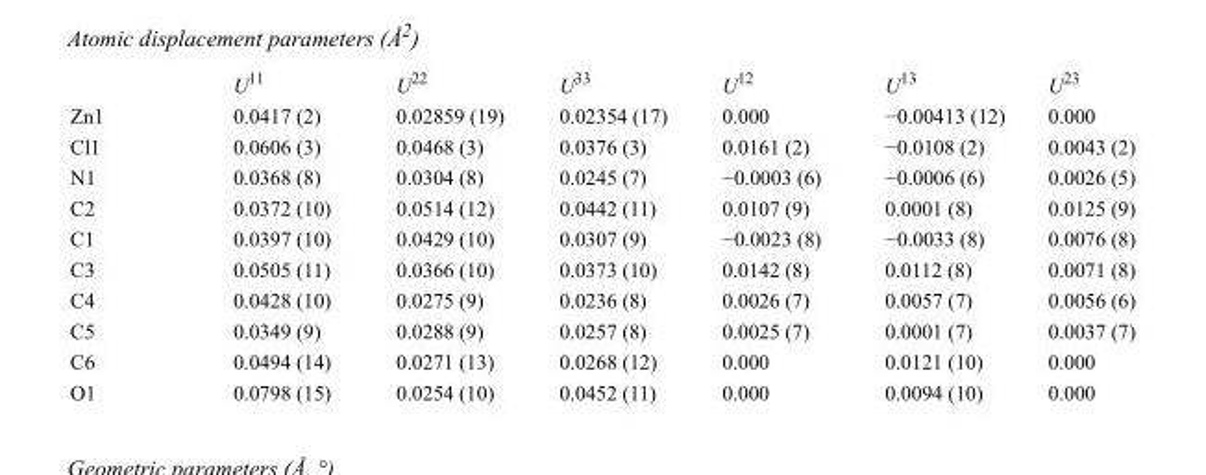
<table><thead><tr><td></td><td>U<sup>11</sup></td><td>U<sup>22</sup></td><td>U<sup>33</sup></td><td>U<sup>12</sup></td><td>U<sup>13</sup></td><td>U<sup>23</sup></td></tr></thead><tbody><tr><td>Zn1</td><td>0.0417 (2)</td><td>0.02859 (19)</td><td>0.02354 (17)</td><td>0.000</td><td>−0.00413 (12)</td><td>0.000</td></tr><tr><td>Cl1</td><td>0.0606 (3)</td><td>0.0468 (3)</td><td>0.0376 (3)</td><td>0.0161 (2)</td><td>−0.0108 (2)</td><td>0.0043 (2)</td></tr><tr><td>N1</td><td>0.0368 (8)</td><td>0.0304 (8)</td><td>0.0245 (7)</td><td>−0.0003 (6)</td><td>−0.0006 (6)</td><td>0.0026 (5)</td></tr><tr><td>C2</td><td>0.0372 (10)</td><td>0.0514 (12)</td><td>0.0442 (11)</td><td>0.0107 (9)</td><td>0.0001 (8)</td><td>0.0125 (9)</td></tr><tr><td>C1</td><td>0.0397 (10)</td><td>0.0429 (10)</td><td>0.0307 (9)</td><td>−0.0023 (8)</td><td>−0.0033 (8)</td><td>0.0076 (8)</td></tr><tr><td>C3</td><td>0.0505 (11)</td><td>0.0366 (10)</td><td>0.0373 (10)</td><td>0.0142 (8)</td><td>0.0112 (8)</td><td>0.0071 (8)</td></tr><tr><td>C4</td><td>0.0428 (10)</td><td>0.0275 (9)</td><td>0.0236 (8)</td><td>0.0026 (7)</td><td>0.0057 (7)</td><td>0.0056 (6)</td></tr><tr><td>C5</td><td>0.0349 (9)</td><td>0.0288 (9)</td><td>0.0257 (8)</td><td>0.0025 (7)</td><td>0.0001 (7)</td><td>0.0037 (7)</td></tr><tr><td>C6</td><td>0.0494 (14)</td><td>0.0271 (13)</td><td>0.0268 (12)</td><td>0.000</td><td>0.0121 (10)</td><td>0.000</td></tr><tr><td>O1</td><td>0.0798 (15)</td><td>0.0254 (10)</td><td>0.0452 (11)</td><td>0.000</td><td>0.0094 (10)</td><td>0.000</td></tr></tbody></table>